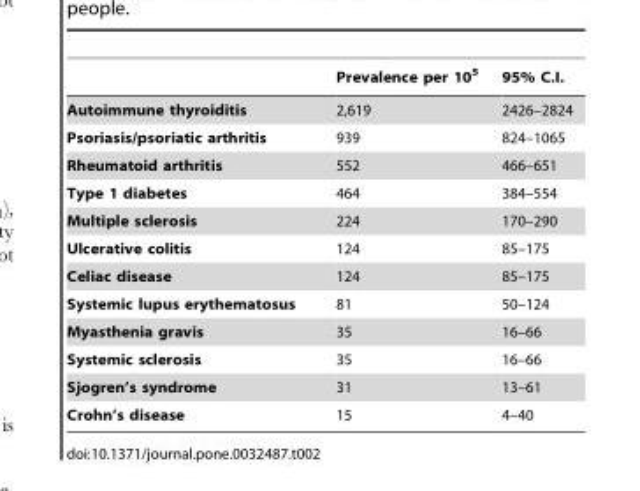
<table><thead><tr><td></td><td>Prevalence per 10<sup>5</sup></td><td>95% C.I.</td></tr></thead><tbody><tr><td>Autoimmune thyroiditis</td><td>2,619</td><td>2426–2824</td></tr><tr><td>Psoriasis/psoriatic arthritis</td><td>939</td><td>824–1065</td></tr><tr><td>Rheumatoid arthritis</td><td>552</td><td>466–651</td></tr><tr><td>Type 1 diabetes</td><td>464</td><td>384–554</td></tr><tr><td>Multiple sclerosis</td><td>224</td><td>170–290</td></tr><tr><td>Ulcerative colitis</td><td>124</td><td>85–175</td></tr><tr><td>Celiac disease</td><td>124</td><td>85–175</td></tr><tr><td>Systemic lupus erythematosus</td><td>81</td><td>50–124</td></tr><tr><td>Myasthenia gravis</td><td>35</td><td>16–66</td></tr><tr><td>Systemic sclerosis</td><td>35</td><td>16–66</td></tr><tr><td>Sjogren’s syndrome</td><td>31</td><td>13–61</td></tr><tr><td>Crohn’s disease</td><td>15</td><td>4–40</td></tr></tbody></table>